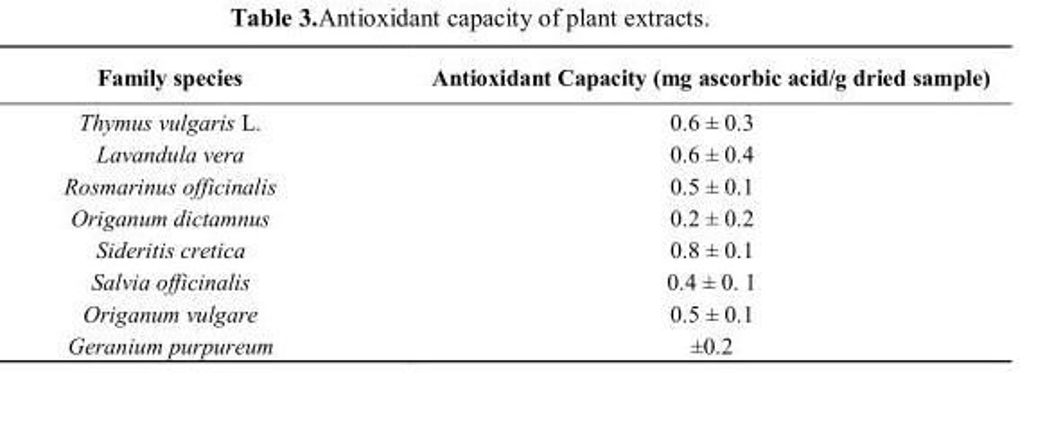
<table><thead><tr><td>Family species</td><td>Antioxidant Capacity (mg ascorbic acid/g dried sample)</td></tr></thead><tbody><tr><td>Thymus vulgaris L.</td><td>0.6 ± 0.3</td></tr><tr><td>Lavandula vera</td><td>0.6 ± 0.4</td></tr><tr><td>Rosmarinus officinalis</td><td>0.5 ± 0.1</td></tr><tr><td>Origanum dictamnus</td><td>0.2 ± 0.2</td></tr><tr><td>Sideritis cretica</td><td>0.8 ± 0.1</td></tr><tr><td>Salvia officinalis</td><td>0.4 ± 0. 1</td></tr><tr><td>Origanum vulgare</td><td>0.5 ± 0.1</td></tr><tr><td>Geranium purpureum</td><td>±0.2</td></tr></tbody></table>